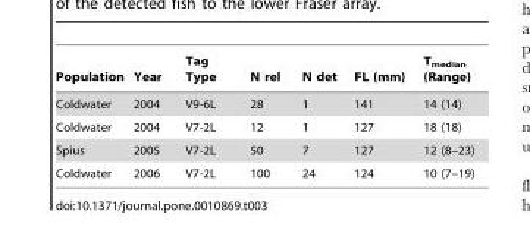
<table><thead><tr><td>Population</td><td>Year</td><td>Tag Type</td><td>N rel</td><td>N det</td><td>FL (mm)</td><td>T<sub>median</sub> (Range)</td></tr></thead><tbody><tr><td>Coldwater</td><td>2004</td><td>V9-6L</td><td>28</td><td>1</td><td>141</td><td>14 (14)</td></tr><tr><td>Coldwater</td><td>2004</td><td>V7-2L</td><td>12</td><td>1</td><td>127</td><td>18 (18)</td></tr><tr><td>Spius</td><td>2005</td><td>V7-2L</td><td>50</td><td>7</td><td>127</td><td>12 (8–23)</td></tr><tr><td>Coldwater</td><td>2006</td><td>V7-2L</td><td>100</td><td>24</td><td>124</td><td>10 (7–19)</td></tr></tbody></table>